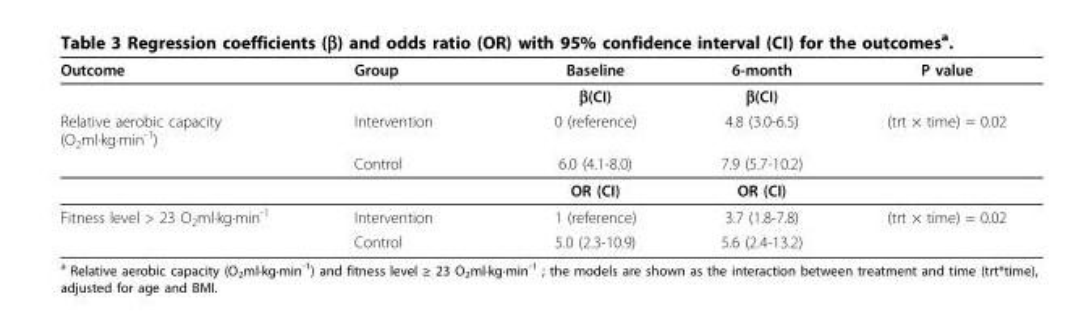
<table><thead><tr><td>Outcome</td><td>Group</td><td>Baseline</td><td>6-month</td><td>P value</td></tr></thead><tbody><tr><td></td><td></td><td>β(CI)</td><td>β(CI)</td><td></td></tr><tr><td rowspan="3">Relative aerobic capacity (O<sub>2</sub>ml·kg·min<sup>-1</sup>)</td><td>Intervention</td><td>0 (reference)</td><td>4.8 (3.0-6.5)</td><td>(trt × time) = 0.02</td></tr><tr><td>Control</td><td>6.0 (4.1-8.0)</td><td>7.9 (5.7-10.2)</td><td></td></tr><tr><td></td><td>OR (CI)</td><td>OR (CI)</td><td></td></tr><tr><td rowspan="2">Fitness level &gt; 23 O<sub>2</sub>ml·kg·min<sup>-1</sup></td><td>Intervention</td><td>1 (reference)</td><td>3.7 (1.8-7.8)</td><td>(trt × time) = 0.02</td></tr><tr><td>Control</td><td>5.0 (2.3-10.9)</td><td>5.6 (2.4-13.2)</td><td></td></tr></tbody></table>